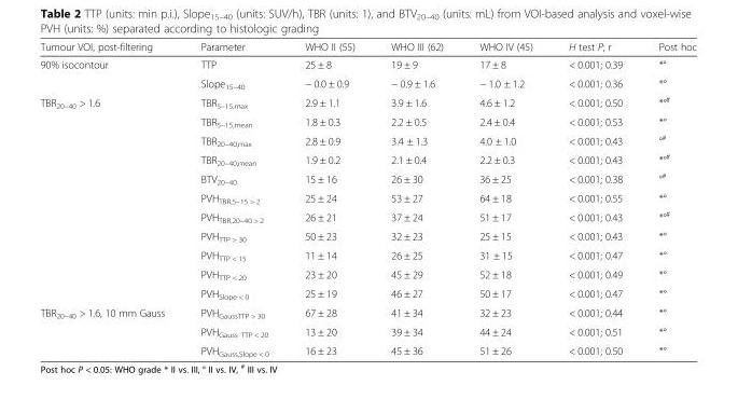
<table><thead><tr><td>Tumour VOI, post-filtering</td><td>Parameter</td><td>WHO II (55)</td><td>WHO III (62)</td><td>WHO IV (45)</td><td>H test P; r</td><td>Post hoc</td></tr></thead><tbody><tr><td rowspan="2">90% isocontour</td><td>TTP</td><td>25 ± 8</td><td>19 ± 9</td><td>17 ± 8</td><td>&lt; 0.001; 0.39</td><td>*°</td></tr><tr><td>Slope<sub>15–40</sub></td><td>− 0.0 ± 0.9</td><td>− 0.9 ± 1.6</td><td>− 1.0 ± 1.2</td><td>&lt; 0.001; 0.36</td><td>*°</td></tr><tr><td rowspan="11">TBR<sub>20–40</sub> &gt; 1.6</td><td>TBR<sub>5–15,max</sub></td><td>2.9 ± 1.1</td><td>3.9 ± 1.6</td><td>4.6 ± 1.2</td><td>&lt; 0.001; 0.50</td><td>*°<sup>#</sup></td></tr><tr><td>TBR<sub>5–15,mean</sub></td><td>1.8 ± 0.3</td><td>2.2 ± 0.5</td><td>2.4 ± 0.4</td><td>&lt; 0.001; 0.53</td><td>*°</td></tr><tr><td>TBR<sub>20–40,max</sub></td><td>2.8 ± 0.9</td><td>3.4 ± 1.3</td><td>4.0 ± 1.0</td><td>&lt; 0.001; 0.43</td><td>°<sup>#</sup></td></tr><tr><td>TBR<sub>20–40,mean</sub></td><td>1.9 ± 0.2</td><td>2.1 ± 0.4</td><td>2.2 ± 0.3</td><td>&lt; 0.001; 0.43</td><td>*°<sup>#</sup></td></tr><tr><td>BTV<sub>20–40</sub></td><td>15 ± 16</td><td>26 ± 30</td><td>36 ± 25</td><td>&lt; 0.001; 0.38</td><td>°<sup>#</sup></td></tr><tr><td>PVH<sub>TBR,5–15 &gt; 2</sub></td><td>25 ± 24</td><td>53 ± 27</td><td>64 ± 18</td><td>&lt; 0.001; 0.55</td><td>*°</td></tr><tr><td>PVH<sub>TBR,20–40 &gt; 2</sub></td><td>26 ± 21</td><td>37 ± 24</td><td>51 ± 17</td><td>&lt; 0.001; 0.43</td><td>*°<sup>#</sup></td></tr><tr><td>PVH<sub>TTP &gt; 30</sub></td><td>50 ± 23</td><td>32 ± 23</td><td>25 ± 15</td><td>&lt; 0.001; 0.43</td><td>*°</td></tr><tr><td>PVH<sub>TTP &lt; 15</sub></td><td>11 ± 14</td><td>26 ± 25</td><td>31 ± 15</td><td>&lt; 0.001; 0.47</td><td>*°</td></tr><tr><td>PVH<sub>TTP &lt; 20</sub></td><td>23 ± 20</td><td>45 ± 29</td><td>52 ± 18</td><td>&lt; 0.001; 0.49</td><td>*°</td></tr><tr><td>PVH<sub>Slope &lt; 0</sub></td><td>25 ± 19</td><td>46 ± 27</td><td>50 ± 17</td><td>&lt; 0.001; 0.47</td><td>*°</td></tr><tr><td rowspan="3">TBR<sub>20–40</sub> &gt; 1.6, 10 mm Gauss</td><td>PVH<sub>GaussTTP &gt; 30</sub></td><td>67 ± 28</td><td>41 ± 34</td><td>32 ± 23</td><td>&lt; 0.001; 0.44</td><td>*°</td></tr><tr><td>PVH<sub>Gauss TTP &lt; 20</sub></td><td>13 ± 20</td><td>39 ± 34</td><td>44 ± 24</td><td>&lt; 0.001; 0.51</td><td>*°</td></tr><tr><td>PVH<sub>Gauss,Slope &lt; 0</sub></td><td>16 ± 23</td><td>45 ± 36</td><td>51 ± 26</td><td>&lt; 0.001; 0.50</td><td>*°</td></tr></tbody></table>